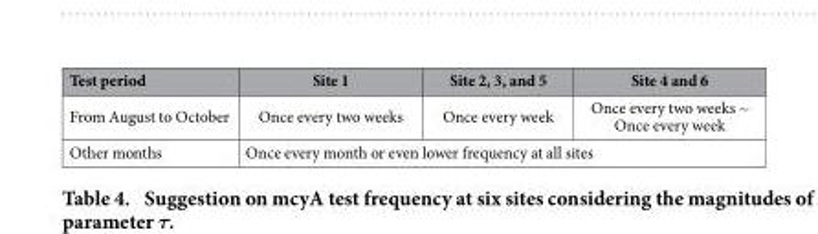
<table><thead><tr><td>Test period</td><td>Site 1</td><td>Site 2, 3, and 5</td><td>Site 4 and 6</td></tr></thead><tbody><tr><td>From August to October</td><td>Once every two weeks</td><td>Once every week</td><td>Once every two weeks ~ Once every week</td></tr><tr><td>Other months</td><td colspan="3">Once every month or even lower frequency at all sites</td></tr></tbody></table>